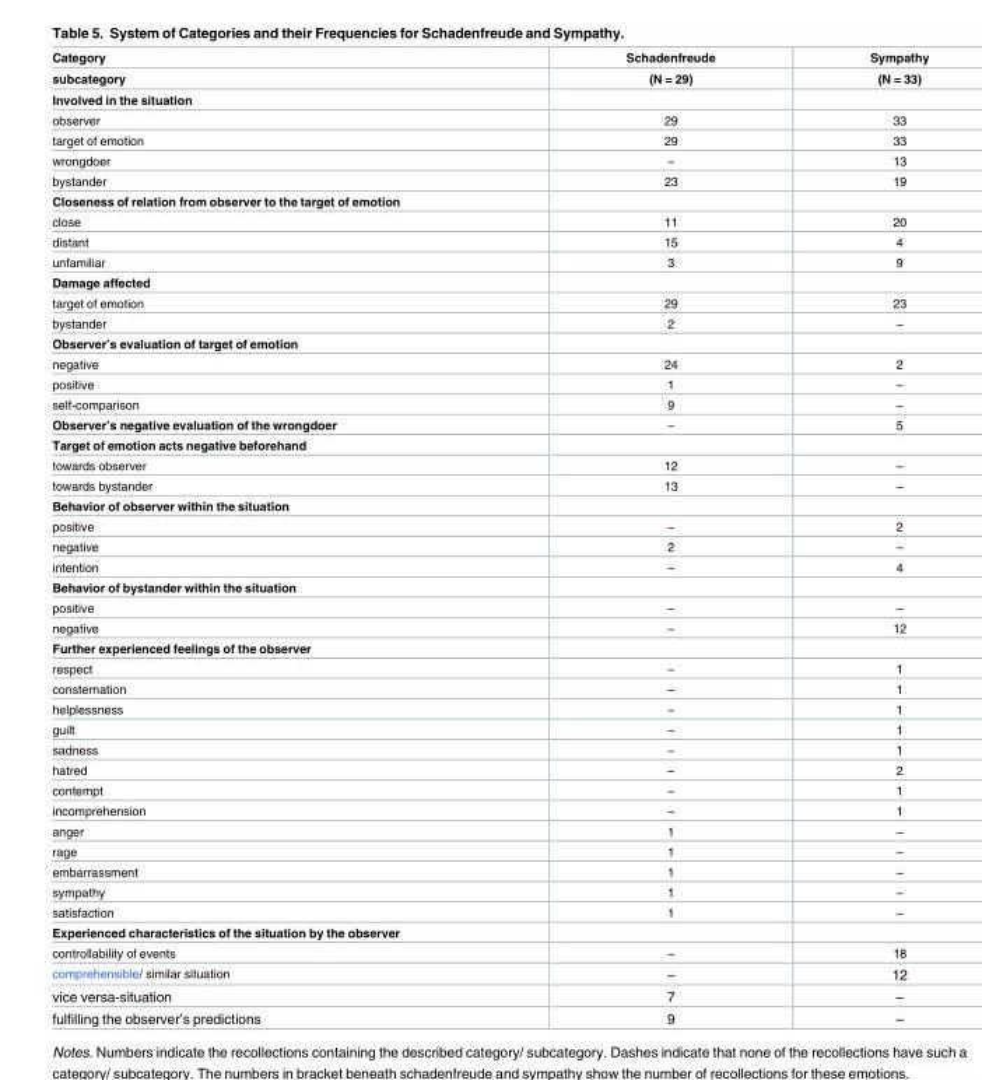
<table><thead><tr><td rowspan="2">Category subcategory</td><td rowspan="2">Schadenfreude (N = 29)</td><td rowspan="2">Sympathy (N = 33)</td></tr><tr></tr></thead><tbody><tr><td colspan="3">Involved in the situation</td></tr><tr><td>observer</td><td>29</td><td>33</td></tr><tr><td>target of emotion</td><td>29</td><td>33</td></tr><tr><td>wrongdoer</td><td>–</td><td>13</td></tr><tr><td>bystander</td><td>23</td><td>19</td></tr><tr><td colspan="3">Closeness of relation from observer to the target of emotion</td></tr><tr><td>close</td><td>11</td><td>20</td></tr><tr><td>distant</td><td>15</td><td>4</td></tr><tr><td>unfamiliar</td><td>3</td><td>9</td></tr><tr><td colspan="3">Damage affected</td></tr><tr><td>target of emotion</td><td>29</td><td>23</td></tr><tr><td>bystander</td><td>2</td><td>–</td></tr><tr><td colspan="3">Observer’s evaluation of target of emotion</td></tr><tr><td>negative</td><td>24</td><td>2</td></tr><tr><td>positive</td><td>1</td><td>–</td></tr><tr><td>self-comparison</td><td>9</td><td>–</td></tr><tr><td>Observer’s negative evaluation of the wrongdoer</td><td>–</td><td>5</td></tr><tr><td colspan="3">Target of emotion acts negative beforehand</td></tr><tr><td>towards observer</td><td>12</td><td>–</td></tr><tr><td>towards bystander</td><td>13</td><td>–</td></tr><tr><td colspan="3">Behavior of observer within the situation</td></tr><tr><td>positive</td><td>–</td><td>2</td></tr><tr><td>negative</td><td>2</td><td>–</td></tr><tr><td>intention</td><td>–</td><td>4</td></tr><tr><td colspan="3">Behavior of bystander within the situation</td></tr><tr><td>positive</td><td>–</td><td>–</td></tr><tr><td>negative</td><td>–</td><td>12</td></tr><tr><td colspan="3">Further experienced feelings of the observer</td></tr><tr><td>respect</td><td>–</td><td>1</td></tr><tr><td>consternation</td><td>–</td><td>1</td></tr><tr><td>helplessness</td><td>–</td><td>1</td></tr><tr><td>guilt</td><td>–</td><td>1</td></tr><tr><td>sadness</td><td>–</td><td>1</td></tr><tr><td>hatred</td><td>–</td><td>2</td></tr><tr><td>contempt</td><td>–</td><td>1</td></tr><tr><td>incomprehension</td><td>–</td><td>1</td></tr><tr><td>anger</td><td>1</td><td>–</td></tr><tr><td>rage</td><td>1</td><td>–</td></tr><tr><td>embarrassment</td><td>1</td><td>–</td></tr><tr><td>sympathy</td><td>1</td><td>–</td></tr><tr><td>satisfaction</td><td>1</td><td>–</td></tr><tr><td colspan="3">Experienced characteristics of the situation by the observer</td></tr><tr><td>controllability of events</td><td>–</td><td>18</td></tr><tr><td>comprehensible/ similar situation</td><td>–</td><td>12</td></tr><tr><td>vice versa-situation</td><td>7</td><td>–</td></tr><tr><td>fulfilling the observer’s predictions</td><td>9</td><td>–</td></tr></tbody></table>